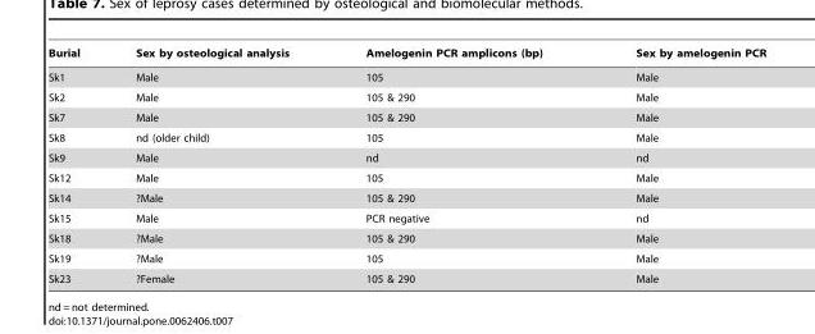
<table><thead><tr><td>Burial</td><td>Sex by osteological analysis</td><td>Amelogenin PCR amplicons (bp)</td><td>Sex by amelogenin PCR</td></tr></thead><tbody><tr><td>Sk1</td><td>Male</td><td>105</td><td>Male</td></tr><tr><td>Sk2</td><td>Male</td><td>105 &amp; 290</td><td>Male</td></tr><tr><td>Sk7</td><td>Male</td><td>105 &amp; 290</td><td>Male</td></tr><tr><td>Sk8</td><td>nd (older child)</td><td>105</td><td>Male</td></tr><tr><td>Sk9</td><td>Male</td><td>nd</td><td>nd</td></tr><tr><td>Sk12</td><td>Male</td><td>105</td><td>Male</td></tr><tr><td>Sk14</td><td>?Male</td><td>105 &amp; 290</td><td>Male</td></tr><tr><td>Sk15</td><td>Male</td><td>PCR negative</td><td>nd</td></tr><tr><td>Sk18</td><td>?Male</td><td>105 &amp; 290</td><td>Male</td></tr><tr><td>Sk19</td><td>?Male</td><td>105</td><td>Male</td></tr><tr><td>Sk23</td><td>?Female</td><td>105 &amp; 290</td><td>Male</td></tr></tbody></table>